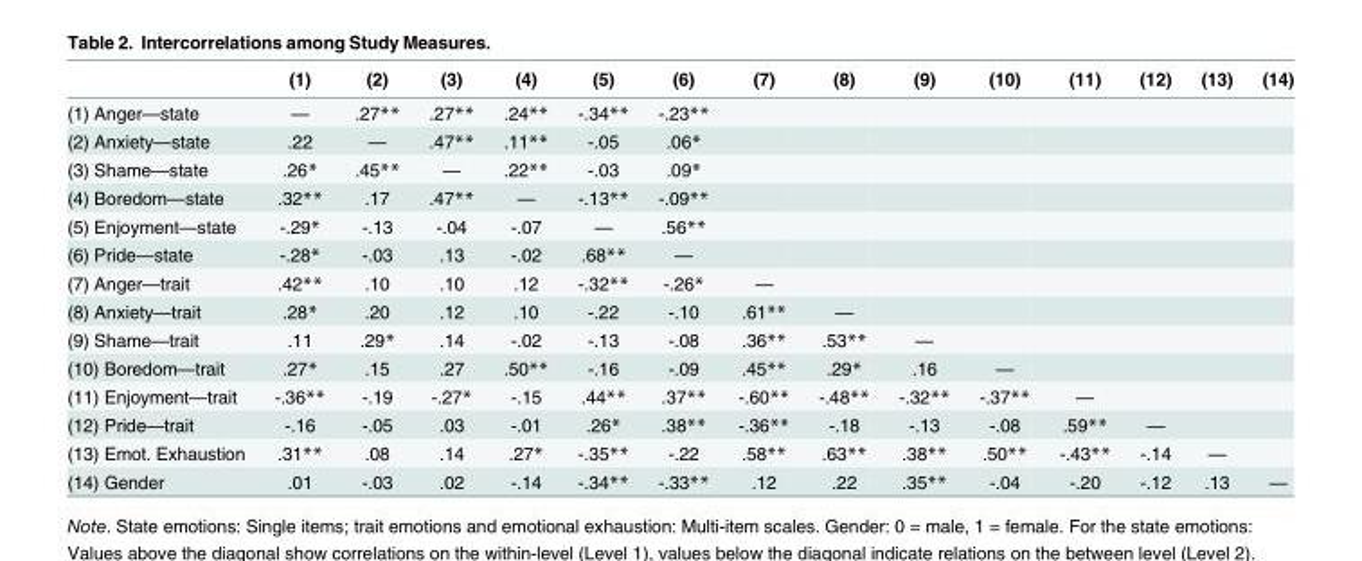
<table><thead><tr><td></td><td>(1)</td><td>(2)</td><td>(3)</td><td>(4)</td><td>(5)</td><td>(6)</td><td>(7)</td><td>(8)</td><td>(9)</td><td>(10)</td><td>(11)</td><td>(12)</td><td>(13)</td><td>(14)</td></tr></thead><tbody><tr><td>(1) Anger—state</td><td>—</td><td>.27**</td><td>.27**</td><td>.24**</td><td>-.34**</td><td>-.23**</td><td></td><td></td><td></td><td></td><td></td><td></td><td></td><td></td></tr><tr><td>(2) Anxiety—state</td><td>.22</td><td>—</td><td>.47**</td><td>.11**</td><td>-.05</td><td>.06*</td><td></td><td></td><td></td><td></td><td></td><td></td><td></td><td></td></tr><tr><td>(3) Shame—state</td><td>.26*</td><td>.45**</td><td>—</td><td>.22**</td><td>-.03</td><td>.09*</td><td></td><td></td><td></td><td></td><td></td><td></td><td></td><td></td></tr><tr><td>(4) Boredom—state</td><td>.32**</td><td>.17</td><td>.47**</td><td>—</td><td>-.13**</td><td>-.09**</td><td></td><td></td><td></td><td></td><td></td><td></td><td></td><td></td></tr><tr><td>(5) Enjoyment—state</td><td>-.29*</td><td>-.13</td><td>-.04</td><td>-.07</td><td>—</td><td>.56**</td><td></td><td></td><td></td><td></td><td></td><td></td><td></td><td></td></tr><tr><td>(6) Pride—state</td><td>-.28*</td><td>-.03</td><td>.13</td><td>-.02</td><td>.68**</td><td>—</td><td></td><td></td><td></td><td></td><td></td><td></td><td></td><td></td></tr><tr><td>(7) Anger—trait</td><td>.42**</td><td>.10</td><td>.10</td><td>.12</td><td>-.32**</td><td>-.26*</td><td>—</td><td></td><td></td><td></td><td></td><td></td><td></td><td></td></tr><tr><td>(8) Anxiety—trait</td><td>.28*</td><td>.20</td><td>.12</td><td>.10</td><td>-.22</td><td>-.10</td><td>.61**</td><td>—</td><td></td><td></td><td></td><td></td><td></td><td></td></tr><tr><td>(9) Shame—trait</td><td>.11</td><td>.29*</td><td>.14</td><td>-.02</td><td>-.13</td><td>-.08</td><td>.36**</td><td>.53**</td><td>—</td><td></td><td></td><td></td><td></td><td></td></tr><tr><td>(10) Boredom—trait</td><td>.27*</td><td>.15</td><td>.27</td><td>.50**</td><td>-.16</td><td>-.09</td><td>.45**</td><td>.29*</td><td>.16</td><td>—</td><td></td><td></td><td></td><td></td></tr><tr><td>(11) Enjoyment—trait</td><td>-.36**</td><td>-.19</td><td>-.27*</td><td>-.15</td><td>.44**</td><td>.37**</td><td>-.60**</td><td>-.48**</td><td>-.32**</td><td>-.37**</td><td>—</td><td></td><td></td><td></td></tr><tr><td>(12) Pride—trait</td><td>-.16</td><td>-.05</td><td>.03</td><td>-.01</td><td>.26*</td><td>.38**</td><td>-.36**</td><td>-.18</td><td>-.13</td><td>-.08</td><td>.59**</td><td>—</td><td></td><td></td></tr><tr><td>(13) Emot. Exhaustion</td><td>.31**</td><td>.08</td><td>.14</td><td>.27*</td><td>-.35**</td><td>-.22</td><td>.58**</td><td>.63**</td><td>.38**</td><td>.50**</td><td>-.43**</td><td>-.14</td><td>—</td><td></td></tr><tr><td>(14) Gender</td><td>.01</td><td>-.03</td><td>.02</td><td>-.14</td><td>-.34**</td><td>-.33**</td><td>.12</td><td>.22</td><td>.35**</td><td>-.04</td><td>-.20</td><td>-.12</td><td>.13</td><td>—</td></tr></tbody></table>